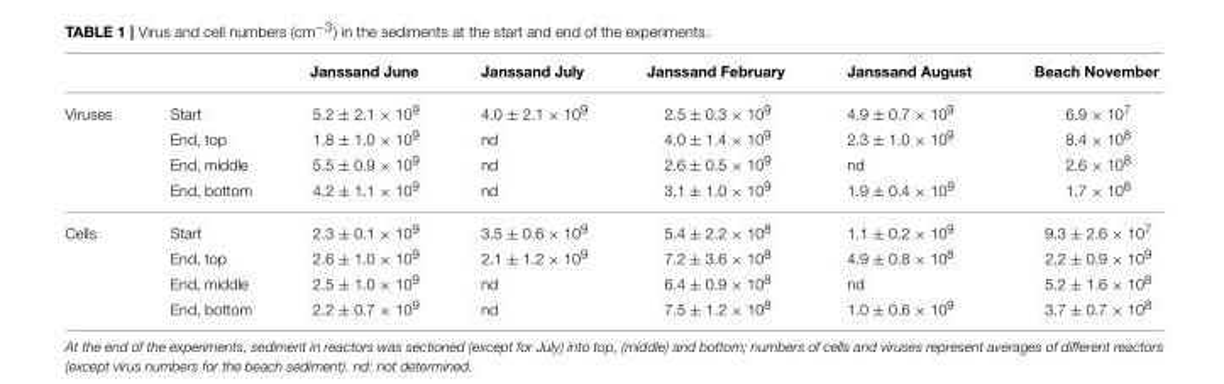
<table><thead><tr><td></td><td></td><td>Janssand June</td><td>Janssand July</td><td>Janssand February</td><td>Janssand August</td><td>Beach November</td></tr></thead><tbody><tr><td rowspan="4">Viruses</td><td>Start</td><td>5.2 ± 2.1 × 10<sup>9</sup></td><td>4.0 ± 2.1 × 10<sup>9</sup></td><td>2.5 ± 0.3 × 10<sup>9</sup></td><td>4.9 ± 0.7 × 10<sup>9</sup></td><td>6.9 × 10<sup>7</sup></td></tr><tr><td>End, top</td><td>1.8 ± 1.0 × 10<sup>9</sup></td><td>nd</td><td>4.0 ± 1.4 × 10<sup>9</sup></td><td>2.3 ± 1.0 × 10<sup>9</sup></td><td>8.4 × 10<sup>8</sup></td></tr><tr><td>End, middle</td><td>5.5 ± 0.9 × 10<sup>9</sup></td><td>nd</td><td>2.6 ± 0.5 × 10<sup>9</sup></td><td>nd</td><td>2.6 × 10<sup>8</sup></td></tr><tr><td>End, bottom</td><td>4.2 ± 1.1 × 10<sup>9</sup></td><td>nd</td><td>3.1 ± 1.0 × 10<sup>9</sup></td><td>1.9 ± 0.4 × 10<sup>9</sup></td><td>1.7 × 10<sup>8</sup></td></tr><tr><td rowspan="4">Cells</td><td>Start</td><td>2.3 ± 0.1 × 10<sup>9</sup></td><td>3.5 ± 0.6 × 10<sup>9</sup></td><td>5.4 ± 2.2 × 10<sup>8</sup></td><td>1.1 ± 0.2 × 10<sup>9</sup></td><td>9.3 ± 2.6 × 10<sup>7</sup></td></tr><tr><td>End, top</td><td>2.6 ± 1.0 × 10<sup>9</sup></td><td>2.1 ± 1.2 × 10<sup>9</sup></td><td>7.2 ± 3.6 × 10<sup>8</sup></td><td>4.9 ± 0.8 × 10<sup>8</sup></td><td>2.2 ± 0.9 × 10<sup>9</sup></td></tr><tr><td>End, middle</td><td>2.5 ± 1.0 × 10<sup>9</sup></td><td>nd</td><td>6.4 ± 0.9 × 10<sup>8</sup></td><td>nd</td><td>5.2 ± 1.6 × 10<sup>8</sup></td></tr><tr><td>End, bottom</td><td>2.2 ± 0.7 × 10<sup>9</sup></td><td>nd</td><td>7.5 ± 1.2 × 10<sup>8</sup></td><td>1.0 ± 0.6 × 10<sup>9</sup></td><td>3.7 ± 0.7 × 10<sup>8</sup></td></tr></tbody></table>